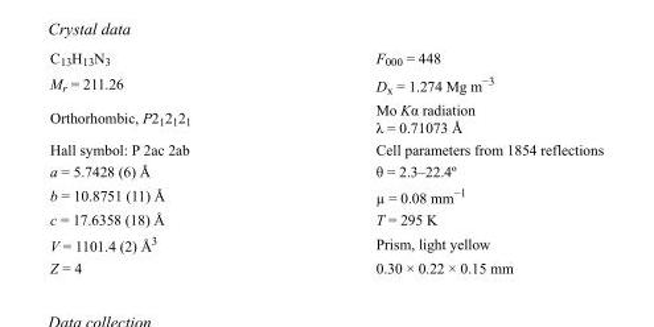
<table><tbody><tr><td>C<sub>13</sub>H<sub>13</sub>N<sub>3</sub></td><td>F000 = 448</td></tr><tr><td>M<sub>r</sub> = 211.26</td><td>D<sub>x</sub> = 1.274 Mg m<sup>−3</sup></td></tr><tr><td>Orthorhombic, P2<sub>1</sub>2<sub>1</sub>2<sub>1</sub></td><td>Mo Kα radiation λ = 0.71073 Å</td></tr><tr><td>Hall symbol: P 2ac 2ab</td><td>Cell parameters from 1854 reflections</td></tr><tr><td>a = 5.7428 (6) Å</td><td>θ = 2.3–22.4º</td></tr><tr><td>b = 10.8751 (11) Å</td><td>µ = 0.08 mm<sup>−1</sup></td></tr><tr><td>c = 17.6358 (18) Å</td><td>T = 295 K</td></tr><tr><td>V = 1101.4 (2) Å<sup>3</sup></td><td>Prism, light yellow</td></tr><tr><td>Z = 4</td><td>0.30 × 0.22 × 0.15 mm</td></tr></tbody></table>